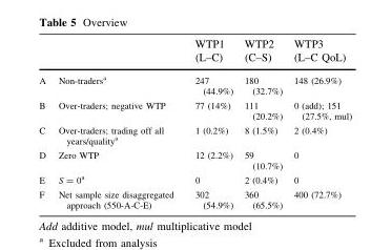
<table><thead><tr><td></td><td></td><td>WTP1 (L–C)</td><td>WTP2 (C–S)</td><td>WTP3 (L–C QoL)</td></tr></thead><tbody><tr><td>A</td><td>Non-traders<sup>a</sup></td><td>247 (44.9%)</td><td>180 (32.7%)</td><td>148 (26.9%)</td></tr><tr><td>B</td><td>Over-traders; negative WTP</td><td>77 (14%)</td><td>111 (20.2%)</td><td>0 (add); 151 (27.5%, mul)</td></tr><tr><td>C</td><td>Over-traders; trading off all years/quality<sup>a</sup></td><td>1 (0.2%)</td><td>8 (1.5%)</td><td>2 (0.4%)</td></tr><tr><td>D</td><td>Zero WTP</td><td>12 (2.2%)</td><td>59 (10.7%)</td><td>0</td></tr><tr><td>E</td><td>S = 0<sup>a</sup></td><td>0</td><td>2 (0.4%)</td><td>0</td></tr><tr><td>F</td><td>Net sample size disaggregated approach (550-A-C-E)</td><td>302 (54.9%)</td><td>360 (65.5%)</td><td>400 (72.7%)</td></tr></tbody></table>